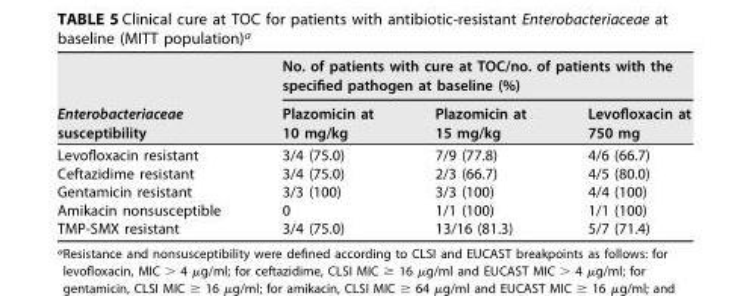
<table><thead><tr><td rowspan="2">Enterobacteriaceae susceptibility</td><td colspan="3">No. of patients with cure at TOC/no. of patients with the specified pathogen at baseline (%)</td></tr><tr><td>Plazomicin at 10 mg/kg</td><td>Plazomicin at 15 mg/kg</td><td>Levofloxacin at 750 mg</td></tr></thead><tbody><tr><td>Levofloxacin resistant</td><td>3/4 (75.0)</td><td>7/9 (77.8)</td><td>4/6 (66.7)</td></tr><tr><td>Ceftazidime resistant</td><td>3/4 (75.0)</td><td>2/3 (66.7)</td><td>4/5 (80.0)</td></tr><tr><td>Gentamicin resistant</td><td>3/3 (100)</td><td>3/3 (100)</td><td>4/4 (100)</td></tr><tr><td>Amikacin nonsusceptible</td><td>0</td><td>1/1 (100)</td><td>1/1 (100)</td></tr><tr><td>TMP-SMX resistant</td><td>3/4 (75.0)</td><td>13/16 (81.3)</td><td>5/7 (71.4)</td></tr></tbody></table>